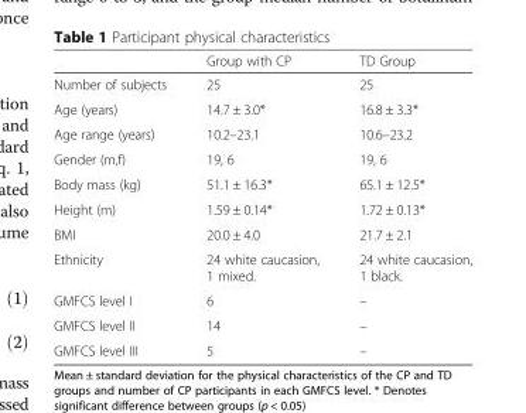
<table><thead><tr><td></td><td>Group with CP</td><td>TD Group</td></tr></thead><tbody><tr><td>Number of subjects</td><td>25</td><td>25</td></tr><tr><td>Age (years)</td><td>14.7 ± 3.0*</td><td>16.8 ± 3.3*</td></tr><tr><td>Age range (years)</td><td>10.2–23.1</td><td>10.6–23.2</td></tr><tr><td>Gender (m,f)</td><td>19, 6</td><td>19, 6</td></tr><tr><td>Body mass (kg)</td><td>51.1 ± 16.3*</td><td>65.1 ± 12.5*</td></tr><tr><td>Height (m)</td><td>1.59 ± 0.14*</td><td>1.72 ± 0.13*</td></tr><tr><td>BMI</td><td>20.0 ± 4.0</td><td>21.7 ± 2.1</td></tr><tr><td>Ethnicity</td><td>24 white caucasion, 1 mixed.</td><td>24 white caucasion, 1 black.</td></tr><tr><td>GMFCS level I</td><td>6</td><td>–</td></tr><tr><td>GMFCS level II</td><td>14</td><td>–</td></tr><tr><td>GMFCS level III</td><td>5</td><td>–</td></tr></tbody></table>